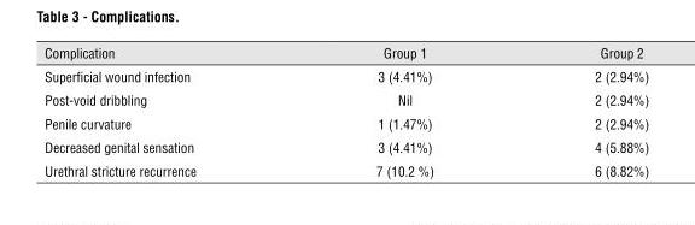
<table><thead><tr><td>Complication</td><td>Group 1</td><td>Group 2</td></tr></thead><tbody><tr><td>Superficial wound infection</td><td>3 (4.41%)</td><td>2 (2.94%)</td></tr><tr><td>Post-void dribbling</td><td>Nil</td><td>2 (2.94%)</td></tr><tr><td>Penile curvature</td><td>1 (1.47%)</td><td>2 (2.94%)</td></tr><tr><td>Decreased genital sensation</td><td>3 (4.41%)</td><td>4 (5.88%)</td></tr><tr><td>Urethral stricture recurrence</td><td>7 (10.2 %)</td><td>6 (8.82%)</td></tr></tbody></table>